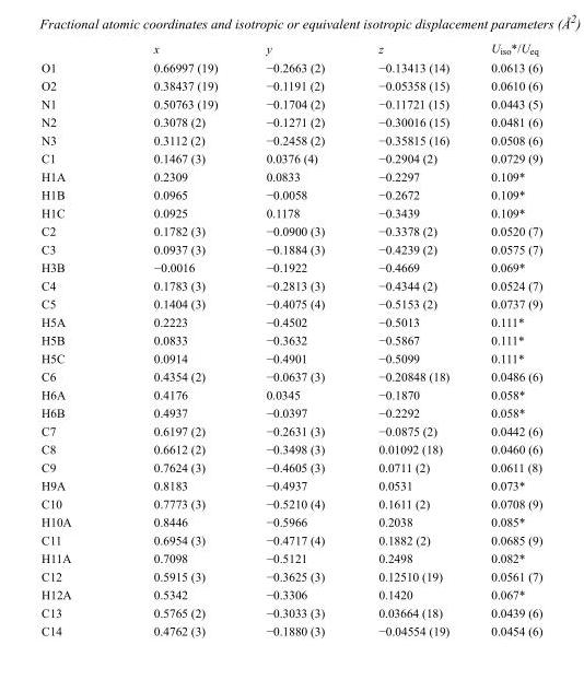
<table><thead><tr><td></td><td>x</td><td>y</td><td>z</td><td>U<sub>iso</sub>*/U<sub>eq</sub></td></tr></thead><tbody><tr><td>O1</td><td>0.66997 (19)</td><td>−0.2663 (2)</td><td>−0.13413 (14)</td><td>0.0613 (6)</td></tr><tr><td>O2</td><td>0.38437 (19)</td><td>−0.1191 (2)</td><td>−0.05358 (15)</td><td>0.0610 (6)</td></tr><tr><td>N1</td><td>0.50763 (19)</td><td>−0.1704 (2)</td><td>−0.11721 (15)</td><td>0.0443 (5)</td></tr><tr><td>N2</td><td>0.3078 (2)</td><td>−0.1271 (2)</td><td>−0.30016 (15)</td><td>0.0481 (6)</td></tr><tr><td>N3</td><td>0.3112 (2)</td><td>−0.2458 (2)</td><td>−0.35815 (16)</td><td>0.0508 (6)</td></tr><tr><td>C1</td><td>0.1467 (3)</td><td>0.0376 (4)</td><td>−0.2904 (2)</td><td>0.0729 (9)</td></tr><tr><td>H1A</td><td>0.2309</td><td>0.0833</td><td>−0.2297</td><td>0.109*</td></tr><tr><td>H1B</td><td>0.0965</td><td>−0.0058</td><td>−0.2672</td><td>0.109*</td></tr><tr><td>H1C</td><td>0.0925</td><td>0.1178</td><td>−0.3439</td><td>0.109*</td></tr><tr><td>C2</td><td>0.1782 (3)</td><td>−0.0900 (3)</td><td>−0.3378 (2)</td><td>0.0520 (7)</td></tr><tr><td>C3</td><td>0.0937 (3)</td><td>−0.1884 (3)</td><td>−0.4239 (2)</td><td>0.0575 (7)</td></tr><tr><td>H3B</td><td>−0.0016</td><td>−0.1922</td><td>−0.4669</td><td>0.069*</td></tr><tr><td>C4</td><td>0.1783 (3)</td><td>−0.2813 (3)</td><td>−0.4344 (2)</td><td>0.0524 (7)</td></tr><tr><td>C5</td><td>0.1404 (3)</td><td>−0.4075 (4)</td><td>−0.5153 (2)</td><td>0.0737 (9)</td></tr><tr><td>H5A</td><td>0.2223</td><td>−0.4502</td><td>−0.5013</td><td>0.111*</td></tr><tr><td>H5B</td><td>0.0833</td><td>−0.3632</td><td>−0.5867</td><td>0.111*</td></tr><tr><td>H5C</td><td>0.0914</td><td>−0.4901</td><td>−0.5099</td><td>0.111*</td></tr><tr><td>C6</td><td>0.4354 (2)</td><td>−0.0637 (3)</td><td>−0.20848 (18)</td><td>0.0486 (6)</td></tr><tr><td>H6A</td><td>0.4176</td><td>0.0345</td><td>−0.1870</td><td>0.058*</td></tr><tr><td>H6B</td><td>0.4937</td><td>−0.0397</td><td>−0.2292</td><td>0.058*</td></tr><tr><td>C7</td><td>0.6197 (2)</td><td>−0.2631 (3)</td><td>−0.0875 (2)</td><td>0.0442 (6)</td></tr><tr><td>C8</td><td>0.6612 (2)</td><td>−0.3498 (3)</td><td>0.01092 (18)</td><td>0.0460 (6)</td></tr><tr><td>C9</td><td>0.7624 (3)</td><td>−0.4605 (3)</td><td>0.0711 (2)</td><td>0.0611 (8)</td></tr><tr><td>H9A</td><td>0.8183</td><td>−0.4937</td><td>0.0531</td><td>0.073*</td></tr><tr><td>C10</td><td>0.7773 (3)</td><td>−0.5210 (4)</td><td>0.1611 (2)</td><td>0.0708 (9)</td></tr><tr><td>H10A</td><td>0.8446</td><td>−0.5966</td><td>0.2038</td><td>0.085*</td></tr><tr><td>C11</td><td>0.6954 (3)</td><td>−0.4717 (4)</td><td>0.1882 (2)</td><td>0.0685 (9)</td></tr><tr><td>H11A</td><td>0.7098</td><td>−0.5121</td><td>0.2498</td><td>0.082*</td></tr><tr><td>C12</td><td>0.5915 (3)</td><td>−0.3625 (3)</td><td>0.12510 (19)</td><td>0.0561 (7)</td></tr><tr><td>H12A</td><td>0.5342</td><td>−0.3306</td><td>0.1420</td><td>0.067*</td></tr><tr><td>C13</td><td>0.5765 (2)</td><td>−0.3033 (3)</td><td>0.03664 (18)</td><td>0.0439 (6)</td></tr><tr><td>C14</td><td>0.4762 (3)</td><td>−0.1880 (3)</td><td>−0.04554 (19)</td><td>0.0454 (6)</td></tr></tbody></table>